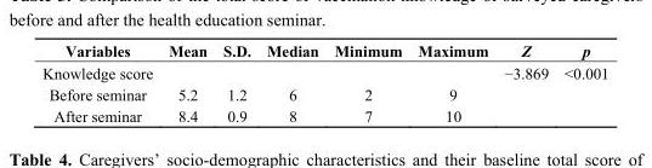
<table><thead><tr><td>Variables</td><td>Mean</td><td>S.D.</td><td>Median</td><td>Minimum</td><td>Maximum</td><td>Z</td><td>p</td></tr></thead><tbody><tr><td>Knowledge score</td><td></td><td></td><td></td><td></td><td></td><td>−3.869</td><td>&lt;0.001</td></tr><tr><td>Before seminar</td><td>5.2</td><td>1.2</td><td>6</td><td>2</td><td>9</td><td></td><td></td></tr><tr><td>After seminar</td><td>8.4</td><td>0.9</td><td>8</td><td>7</td><td>10</td><td></td><td></td></tr></tbody></table>